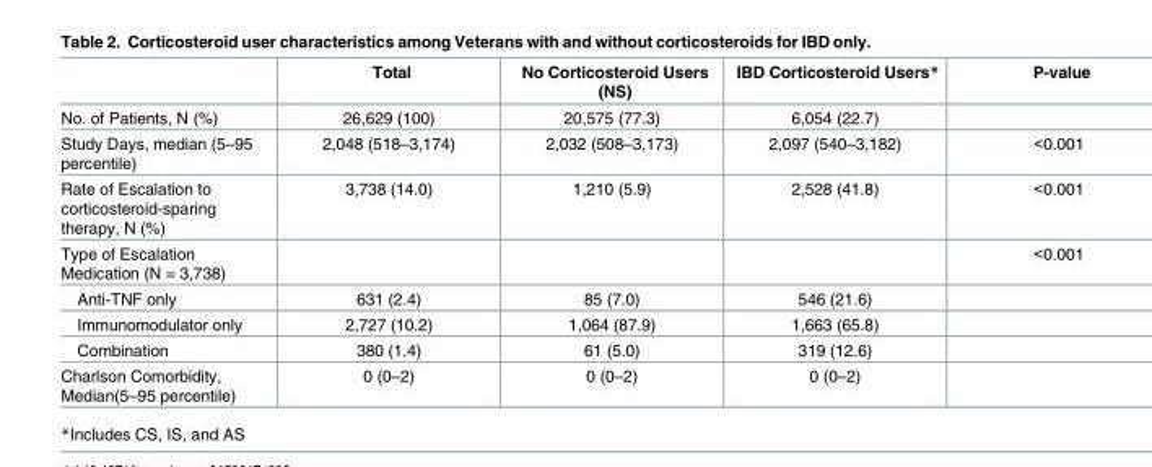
<table><thead><tr><td></td><td>Total</td><td>No Corticosteroid Users (NS)</td><td>IBD Corticosteroid Users*</td><td>P-value</td></tr></thead><tbody><tr><td>No. of Patients, N (%)</td><td>26,629 (100)</td><td>20,575 (77.3)</td><td>6,054 (22.7)</td><td></td></tr><tr><td>Study Days, median (5–95 percentile)</td><td>2,048 (518–3,174)</td><td>2,032 (508–3,173)</td><td>2,097 (540–3,182)</td><td>&lt;0.001</td></tr><tr><td>Rate of Escalation to corticosteroid-sparing therapy, N (%)</td><td>3,738 (14.0)</td><td>1,210 (5.9)</td><td>2,528 (41.8)</td><td>&lt;0.001</td></tr><tr><td>Type of Escalation Medication (N = 3,738)</td><td></td><td></td><td></td><td>&lt;0.001</td></tr><tr><td>Anti-TNF only</td><td>631 (2.4)</td><td>85 (7.0)</td><td>546 (21.6)</td><td></td></tr><tr><td>Immunomodulator only</td><td>2,727 (10.2)</td><td>1,064 (87.9)</td><td>1,663 (65.8)</td><td></td></tr><tr><td>Combination</td><td>380 (1.4)</td><td>61 (5.0)</td><td>319 (12.6)</td><td></td></tr><tr><td>Charlson Comorbidity, Median(5–95 percentile)</td><td>0 (0–2)</td><td>0 (0–2)</td><td>0 (0–2)</td><td></td></tr></tbody></table>